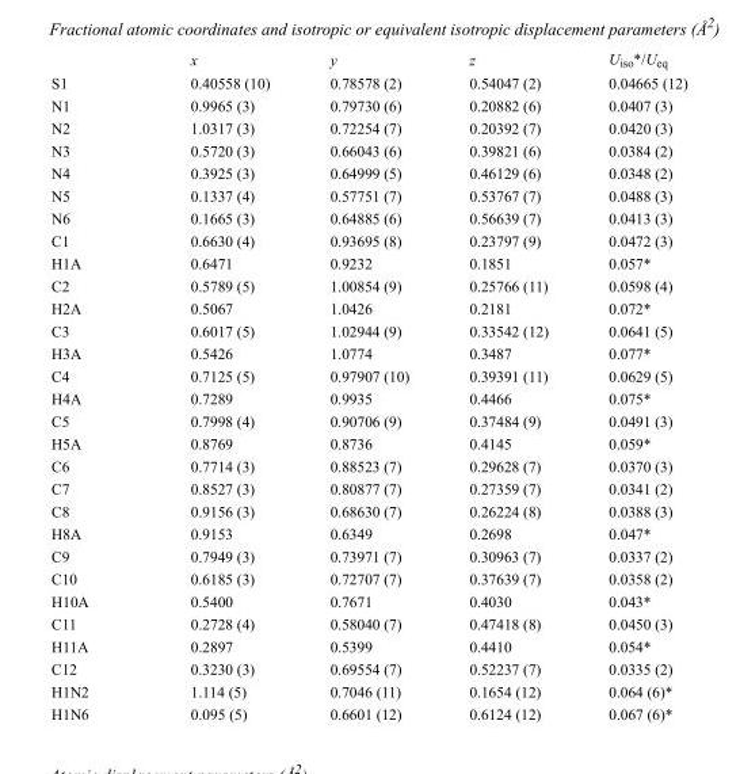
<table><thead><tr><td></td><td>x</td><td>y</td><td>z</td><td>U<sub>iso</sub>*/U<sub>eq</sub></td></tr></thead><tbody><tr><td>S1</td><td>0.40558 (10)</td><td>0.78578 (2)</td><td>0.54047 (2)</td><td>0.04665 (12)</td></tr><tr><td>N1</td><td>0.9965 (3)</td><td>0.79730 (6)</td><td>0.20882 (6)</td><td>0.0407 (3)</td></tr><tr><td>N2</td><td>1.0317 (3)</td><td>0.72254 (7)</td><td>0.20392 (7)</td><td>0.0420 (3)</td></tr><tr><td>N3</td><td>0.5720 (3)</td><td>0.66043 (6)</td><td>0.39821 (6)</td><td>0.0384 (2)</td></tr><tr><td>N4</td><td>0.3925 (3)</td><td>0.64999 (5)</td><td>0.46129 (6)</td><td>0.0348 (2)</td></tr><tr><td>N5</td><td>0.1337 (4)</td><td>0.57751 (7)</td><td>0.53767 (7)</td><td>0.0488 (3)</td></tr><tr><td>N6</td><td>0.1665 (3)</td><td>0.64885 (6)</td><td>0.56639 (7)</td><td>0.0413 (3)</td></tr><tr><td>C1</td><td>0.6630 (4)</td><td>0.93695 (8)</td><td>0.23797 (9)</td><td>0.0472 (3)</td></tr><tr><td>H1A</td><td>0.6471</td><td>0.9232</td><td>0.1851</td><td>0.057*</td></tr><tr><td>C2</td><td>0.5789 (5)</td><td>1.00854 (9)</td><td>0.25766 (11)</td><td>0.0598 (4)</td></tr><tr><td>H2A</td><td>0.5067</td><td>1.0426</td><td>0.2181</td><td>0.072*</td></tr><tr><td>C3</td><td>0.6017 (5)</td><td>1.02944 (9)</td><td>0.33542 (12)</td><td>0.0641 (5)</td></tr><tr><td>H3A</td><td>0.5426</td><td>1.0774</td><td>0.3487</td><td>0.077*</td></tr><tr><td>C4</td><td>0.7125 (5)</td><td>0.97907 (10)</td><td>0.39391 (11)</td><td>0.0629 (5)</td></tr><tr><td>H4A</td><td>0.7289</td><td>0.9935</td><td>0.4466</td><td>0.075*</td></tr><tr><td>C5</td><td>0.7998 (4)</td><td>0.90706 (9)</td><td>0.37484 (9)</td><td>0.0491 (3)</td></tr><tr><td>H5A</td><td>0.8769</td><td>0.8736</td><td>0.4145</td><td>0.059*</td></tr><tr><td>C6</td><td>0.7714 (3)</td><td>0.88523 (7)</td><td>0.29628 (7)</td><td>0.0370 (3)</td></tr><tr><td>C7</td><td>0.8527 (3)</td><td>0.80877 (7)</td><td>0.27359 (7)</td><td>0.0341 (2)</td></tr><tr><td>C8</td><td>0.9156 (3)</td><td>0.68630 (7)</td><td>0.26224 (8)</td><td>0.0388 (3)</td></tr><tr><td>H8A</td><td>0.9153</td><td>0.6349</td><td>0.2698</td><td>0.047*</td></tr><tr><td>C9</td><td>0.7949 (3)</td><td>0.73971 (7)</td><td>0.30963 (7)</td><td>0.0337 (2)</td></tr><tr><td>C10</td><td>0.6185 (3)</td><td>0.72707 (7)</td><td>0.37639 (7)</td><td>0.0358 (2)</td></tr><tr><td>H10A</td><td>0.5400</td><td>0.7671</td><td>0.4030</td><td>0.043*</td></tr><tr><td>C11</td><td>0.2728 (4)</td><td>0.58040 (7)</td><td>0.47418 (8)</td><td>0.0450 (3)</td></tr><tr><td>H11A</td><td>0.2897</td><td>0.5399</td><td>0.4410</td><td>0.054*</td></tr><tr><td>C12</td><td>0.3230 (3)</td><td>0.69554 (7)</td><td>0.52237 (7)</td><td>0.0335 (2)</td></tr><tr><td>H1N2</td><td>1.114 (5)</td><td>0.7046 (11)</td><td>0.1654 (12)</td><td>0.064 (6)*</td></tr><tr><td>H1N6</td><td>0.095 (5)</td><td>0.6601 (12)</td><td>0.6124 (12)</td><td>0.067 (6)*</td></tr></tbody></table>